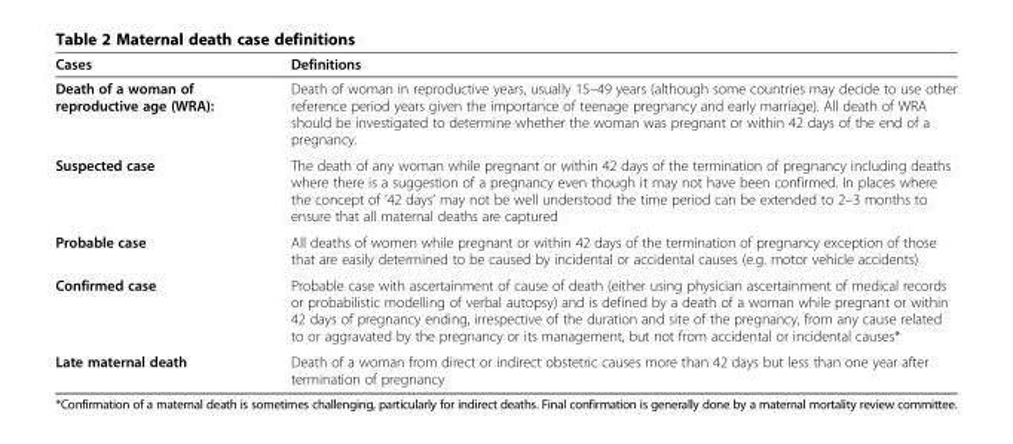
<table><thead><tr><td>Cases</td><td>Definitions</td></tr></thead><tbody><tr><td>Death of a woman of reproductive age (WRA):</td><td>Death of woman in reproductive years, usually 15–49 years (although some countries may decide to use other reference period years given the importance of teenage pregnancy and early marriage). All death of WRA should be investigated to determine whether the woman was pregnant or within 42 days of the end of a pregnancy.</td></tr><tr><td>Suspected case</td><td>The death of any woman while pregnant or within 42 days of the termination of pregnancy including deaths where there is a suggestion of a pregnancy even though it may not have been confirmed. In places where the concept of ‘42 days’ may not be well understood the time period can be extended to 2–3 months to ensure that all maternal deaths are captured</td></tr><tr><td>Probable case</td><td>All deaths of women while pregnant or within 42 days of the termination of pregnancy exception of those that are easily determined to be caused by incidental or accidental causes (e.g. motor vehicle accidents)</td></tr><tr><td>Confirmed case</td><td>Probable case with ascertainment of cause of death (either using physician ascertainment of medical records or probabilistic modelling of verbal autopsy) and is defined by a death of a woman while pregnant or within 42 days of pregnancy ending, irrespective of the duration and site of the pregnancy, from any cause related to or aggravated by the pregnancy or its management, but not from accidental or incidental causes*</td></tr><tr><td>Late maternal death</td><td>Death of a woman from direct or indirect obstetric causes more than 42 days but less than one year after termination of pregnancy</td></tr></tbody></table>